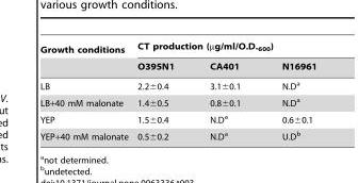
<table><thead><tr><td rowspan="2">Growth conditions</td><td colspan="3">CT production (µg/ml/O.D.<sub>600</sub>)</td></tr><tr><td>O395N1</td><td>CA401</td><td>N16961</td></tr></thead><tbody><tr><td>LB</td><td>2.2±0.4</td><td>3.1±0.1</td><td>N.D<sup>a</sup></td></tr><tr><td>LB+40 mM malonate</td><td>1.4±0.5</td><td>0.8±0.1</td><td>N.D<sup>a</sup></td></tr><tr><td>YEP</td><td>1.5±0.4</td><td>N.D<sup>a</sup></td><td>0.6±0.1</td></tr><tr><td>YEP+40 mM malonate</td><td>0.5±0.2</td><td>N.D<sup>a</sup></td><td>U.D<sup>b</sup></td></tr></tbody></table>